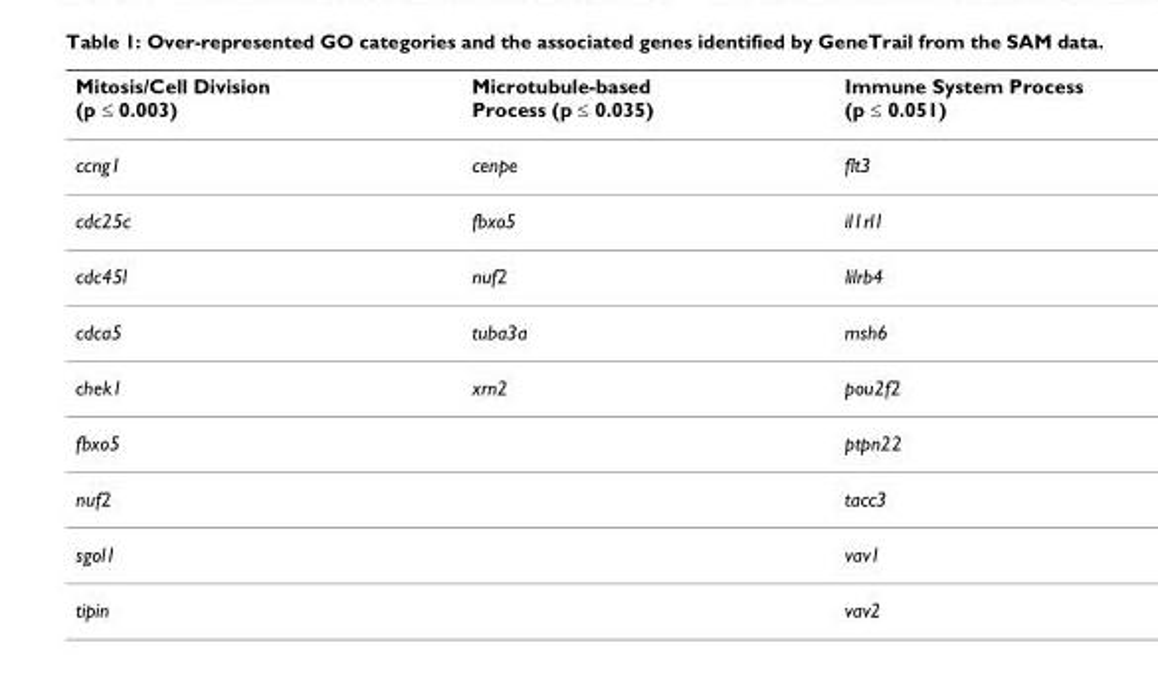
<table><thead><tr><td>Mitosis/Cell Division (p ≤ 0.003)</td><td>Microtubule-based Process (p ≤ 0.035)</td><td>Immune System Process (p ≤ 0.051)</td></tr></thead><tbody><tr><td>ccng1</td><td>cenpe</td><td>flt3</td></tr><tr><td>cdc25c</td><td>fbxo5</td><td>il1rl1</td></tr><tr><td>cdc45l</td><td>nuf2</td><td>lilrb4</td></tr><tr><td>cdca5</td><td>tuba3a</td><td>msh6</td></tr><tr><td>chek1</td><td>xrn2</td><td>pou2f2</td></tr><tr><td>fbxo5</td><td></td><td>ptpn22</td></tr><tr><td>nuf2</td><td></td><td>tacc3</td></tr><tr><td>sgol1</td><td></td><td>vav1</td></tr><tr><td>tipin</td><td></td><td>vav2</td></tr></tbody></table>